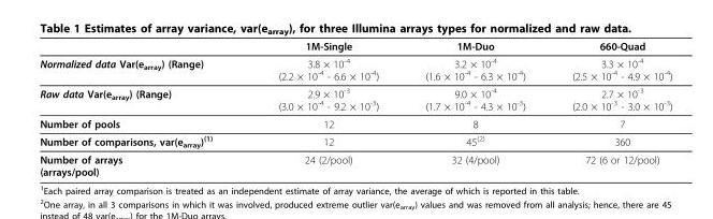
<table><thead><tr><td></td><td>1M-Single</td><td>1M-Duo</td><td>660-Quad</td></tr></thead><tbody><tr><td>Normalized data Var(e<sub>array</sub>) (Range)</td><td>3.8 × 10<sup>-4</sup> (2.2 × 10<sup>-4</sup> - 6.6 × 10<sup>-4</sup>)</td><td>3.2 × 10<sup>-4</sup> (1.6 × 10<sup>-4</sup> - 6.3 × 10<sup>-4</sup>)</td><td>3.3 × 10<sup>-4</sup> (2.5 × 10<sup>-4</sup> - 4.9 × 10<sup>-4</sup>)</td></tr><tr><td>Raw data Var(e<sub>array</sub>) (Range)</td><td>2.9 × 10<sup>-3</sup> (3.0 × 10<sup>-4</sup> - 9.2 × 10<sup>-3</sup>)</td><td>9.0 × 10<sup>-4</sup> (1.7 × 10<sup>-4</sup> - 4.3 × 10<sup>-3</sup>)</td><td>2.7 × 10<sup>-3</sup> (2.0 × 10<sup>-3</sup> - 3.0 × 10<sup>-3</sup>)</td></tr><tr><td>Number of pools</td><td>12</td><td>8</td><td>7</td></tr><tr><td>Number of comparisons, var(e<sub>array</sub>)<sup>(1)</sup></td><td>12</td><td>45<sup>(2)</sup></td><td>360</td></tr><tr><td>Number of arrays (arrays/pool)</td><td>24 (2/pool)</td><td>32 (4/pool)</td><td>72 (6 or 12/pool)</td></tr></tbody></table>